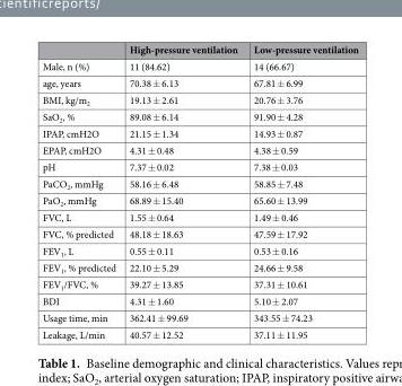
<table><thead><tr><td></td><td>High-pressure ventilation</td><td>Low-pressure ventilation</td></tr></thead><tbody><tr><td>Male, n (%)</td><td>11 (84.62)</td><td>14 (66.67)</td></tr><tr><td>age, years</td><td>70.38 ± 6.13</td><td>67.81 ± 6.99</td></tr><tr><td>BMI, kg/m<sub>2</sub></td><td>19.13 ± 2.61</td><td>20.76 ± 3.76</td></tr><tr><td>SaO<sub>2</sub>, %</td><td>89.08 ± 6.14</td><td>91.90 ± 4.28</td></tr><tr><td>IPAP, cmH2O</td><td>21.15 ± 1.34</td><td>14.93 ± 0.87</td></tr><tr><td>EPAP, cmH2O</td><td>4.31 ± 0.48</td><td>4.38 ± 0.59</td></tr><tr><td>pH</td><td>7.37 ± 0.02</td><td>7.38 ± 0.03</td></tr><tr><td>PaCO<sub>2</sub>, mmHg</td><td>58.16 ± 6.48</td><td>58.85 ± 7.48</td></tr><tr><td>PaO<sub>2</sub>, mmHg</td><td>68.89 ± 15.40</td><td>65.60 ± 13.99</td></tr><tr><td>FVC, L</td><td>1.55 ± 0.64</td><td>1.49 ± 0.46</td></tr><tr><td>FVC, % predicted</td><td>48.18 ± 18.63</td><td>47.59 ± 17.92</td></tr><tr><td>FEV<sub>1</sub>, L</td><td>0.55 ± 0.11</td><td>0.53 ± 0.16</td></tr><tr><td>FEV<sub>1</sub>, % predicted</td><td>22.10 ± 5.29</td><td>24.66 ± 9.58</td></tr><tr><td>FEV<sub>1</sub>/FVC, %</td><td>39.27 ± 13.85</td><td>37.31 ± 10.61</td></tr><tr><td>BDI</td><td>4.31 ± 1.60</td><td>5.10 ± 2.07</td></tr><tr><td>Usage time, min</td><td>362.41 ± 99.69</td><td>343.55 ± 74.23</td></tr><tr><td>Leakage, L/min</td><td>40.57 ± 12.52</td><td>37.11 ± 11.95</td></tr></tbody></table>